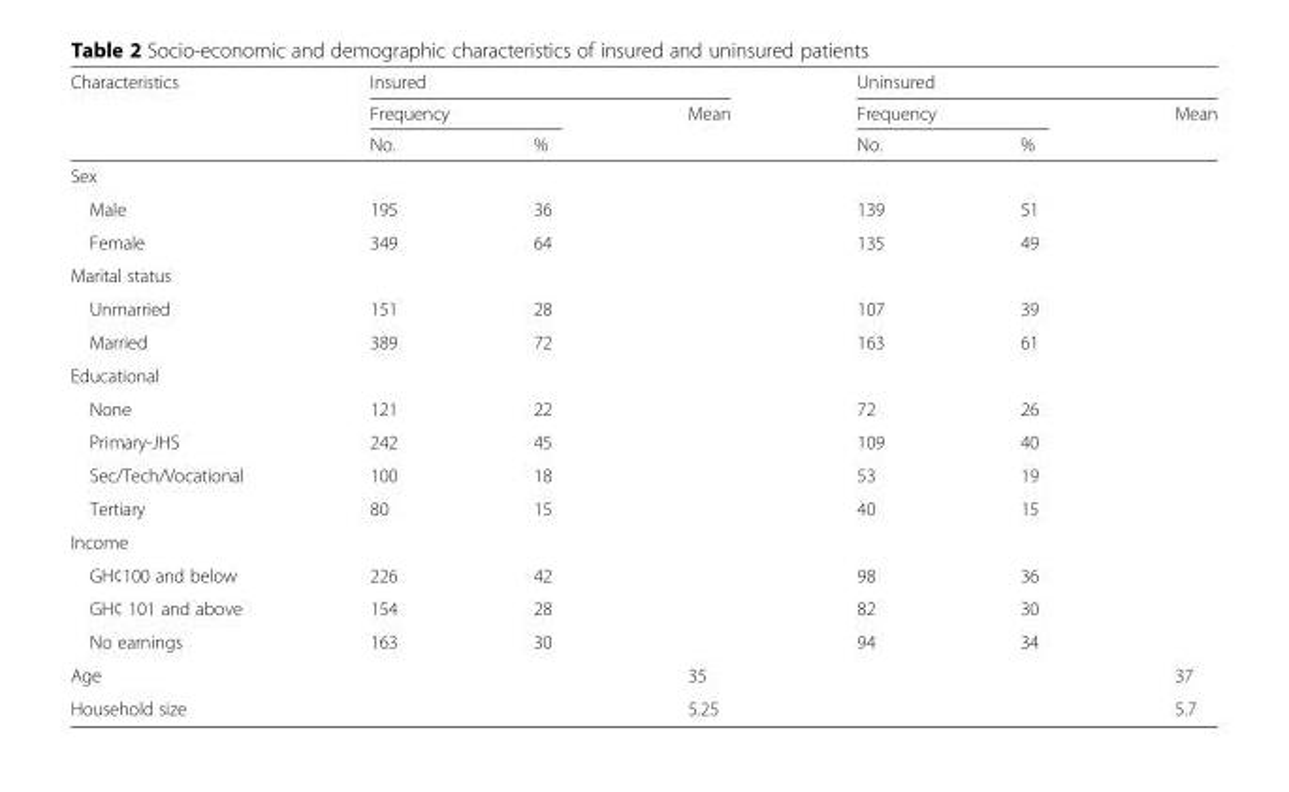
<table><thead><tr><td rowspan="3">Characteristics</td><td colspan="3">Insured</td><td colspan="3">Uninsured</td></tr><tr><td colspan="2">Frequency</td><td rowspan="2">Mean</td><td colspan="2">Frequency</td><td rowspan="2">Mean</td></tr><tr><td>No.</td><td>%</td><td>No.</td><td>%</td></tr></thead><tbody><tr><td colspan="7">Sex</td></tr><tr><td>Male</td><td>195</td><td>36</td><td></td><td>139</td><td>51</td><td></td></tr><tr><td>Female</td><td>349</td><td>64</td><td></td><td>135</td><td>49</td><td></td></tr><tr><td colspan="7">Marital status</td></tr><tr><td>Unmarried</td><td>151</td><td>28</td><td></td><td>107</td><td>39</td><td></td></tr><tr><td>Married</td><td>389</td><td>72</td><td></td><td>163</td><td>61</td><td></td></tr><tr><td colspan="7">Educational</td></tr><tr><td>None</td><td>121</td><td>22</td><td></td><td>72</td><td>26</td><td></td></tr><tr><td>Primary-JHS</td><td>242</td><td>45</td><td></td><td>109</td><td>40</td><td></td></tr><tr><td>Sec/Tech/Vocational</td><td>100</td><td>18</td><td></td><td>53</td><td>19</td><td></td></tr><tr><td>Tertiary</td><td>80</td><td>15</td><td></td><td>40</td><td>15</td><td></td></tr><tr><td colspan="7">Income</td></tr><tr><td>GH¢100 and below</td><td>226</td><td>42</td><td></td><td>98</td><td>36</td><td></td></tr><tr><td>GH¢ 101 and above</td><td>154</td><td>28</td><td></td><td>82</td><td>30</td><td></td></tr><tr><td>No earnings</td><td>163</td><td>30</td><td></td><td>94</td><td>34</td><td></td></tr><tr><td>Age</td><td></td><td></td><td>35</td><td></td><td></td><td>37</td></tr><tr><td>Household size</td><td></td><td></td><td>5.25</td><td></td><td></td><td>5.7</td></tr></tbody></table>